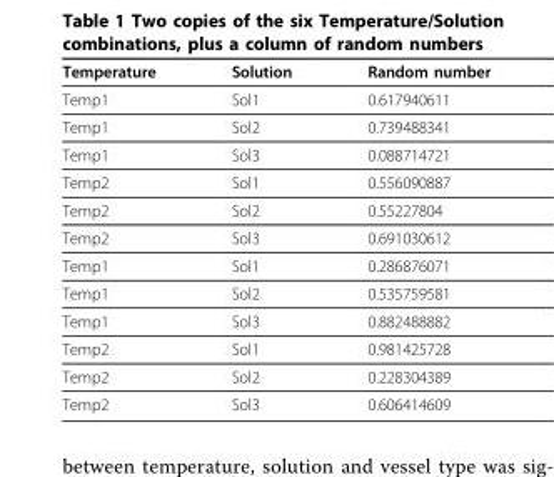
<table><thead><tr><td>Temperature</td><td>Solution</td><td>Random number</td></tr></thead><tbody><tr><td>Temp1</td><td>Sol1</td><td>0.617940611</td></tr><tr><td>Temp1</td><td>Sol2</td><td>0.739488341</td></tr><tr><td>Temp1</td><td>Sol3</td><td>0.088714721</td></tr><tr><td>Temp2</td><td>Sol1</td><td>0.556090887</td></tr><tr><td>Temp2</td><td>Sol2</td><td>0.55227804</td></tr><tr><td>Temp2</td><td>Sol3</td><td>0.691030612</td></tr><tr><td>Temp1</td><td>Sol1</td><td>0.286876071</td></tr><tr><td>Temp1</td><td>Sol2</td><td>0.535759581</td></tr><tr><td>Temp1</td><td>Sol3</td><td>0.882488882</td></tr><tr><td>Temp2</td><td>Sol1</td><td>0.981425728</td></tr><tr><td>Temp2</td><td>Sol2</td><td>0.228304389</td></tr><tr><td>Temp2</td><td>Sol3</td><td>0.606414609</td></tr></tbody></table>